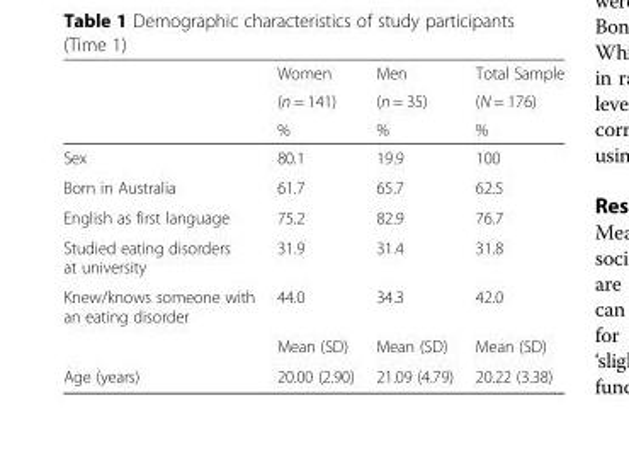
<table><thead><tr><td rowspan="3"></td><td rowspan="3">Women (n = 141) %</td><td rowspan="3">Men (n = 35) %</td><td rowspan="3">Total Sample (N = 176) %</td></tr><tr></tr><tr></tr></thead><tbody><tr><td>Sex</td><td>80.1</td><td>19.9</td><td>100</td></tr><tr><td>Born in Australia</td><td>61.7</td><td>65.7</td><td>62.5</td></tr><tr><td>English as first language</td><td>75.2</td><td>82.9</td><td>76.7</td></tr><tr><td>Studied eating disorders at university</td><td>31.9</td><td>31.4</td><td>31.8</td></tr><tr><td rowspan="2">Knew/knows someone with an eating disorder</td><td>44.0</td><td>34.3</td><td>42.0</td></tr><tr><td>Mean (SD)</td><td>Mean (SD)</td><td>Mean (SD)</td></tr><tr><td>Age (years)</td><td>20.00 (2.90)</td><td>21.09 (4.79)</td><td>20.22 (3.38)</td></tr></tbody></table>